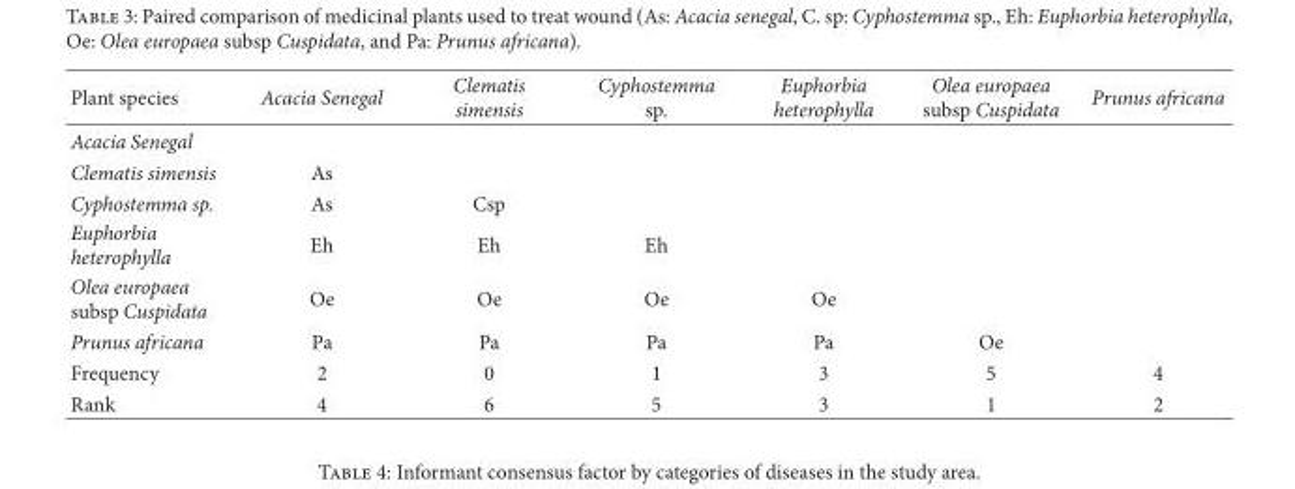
<table><thead><tr><td>Plant species</td><td>Acacia Senegal</td><td>Clematis simensis</td><td>Cyphostemma sp.</td><td>Euphorbia heterophylla</td><td>Olea europaea subsp Cuspidata</td><td>Prunus africana</td></tr></thead><tbody><tr><td colspan="7">Acacia Senegal</td></tr><tr><td>Clematis simensis</td><td>As</td><td></td><td></td><td></td><td></td><td></td></tr><tr><td>Cyphostemma sp.</td><td>As</td><td>Csp</td><td></td><td></td><td></td><td></td></tr><tr><td>Euphorbia heterophylla</td><td>Eh</td><td>Eh</td><td>Eh</td><td></td><td></td><td></td></tr><tr><td>Olea europaea subsp Cuspidata</td><td>Oe</td><td>Oe</td><td>Oe</td><td>Oe</td><td></td><td></td></tr><tr><td>Prunus africana</td><td>Pa</td><td>Pa</td><td>Pa</td><td>Pa</td><td>Oe</td><td></td></tr><tr><td>Frequency</td><td>2</td><td>0</td><td>1</td><td>3</td><td>5</td><td>4</td></tr><tr><td>Rank</td><td>4</td><td>6</td><td>5</td><td>3</td><td>1</td><td>2</td></tr></tbody></table>